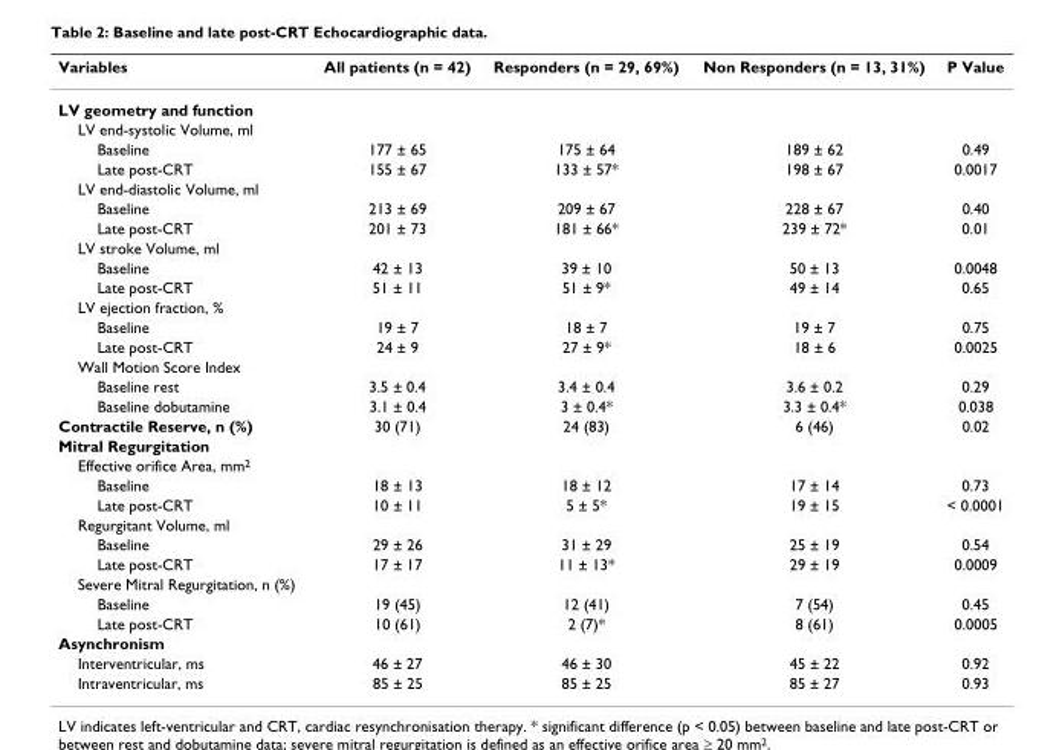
<table><thead><tr><td>Variables</td><td>All patients (n = 42)</td><td>Responders (n = 29, 69%)</td><td>Non Responders (n = 13, 31%)</td><td>P Value</td></tr></thead><tbody><tr><td colspan="5">LV geometry and function</td></tr><tr><td colspan="5">LV end-systolic Volume, ml</td></tr><tr><td>Baseline</td><td>177 ± 65</td><td>175 ± 64</td><td>189 ± 62</td><td>0.49</td></tr><tr><td>Late post-CRT</td><td>155 ± 67</td><td>133 ± 57*</td><td>198 ± 67</td><td>0.0017</td></tr><tr><td colspan="5">LV end-diastolic Volume, ml</td></tr><tr><td>Baseline</td><td>213 ± 69</td><td>209 ± 67</td><td>228 ± 67</td><td>0.40</td></tr><tr><td>Late post-CRT</td><td>201 ± 73</td><td>181 ± 66*</td><td>239 ± 72*</td><td>0.01</td></tr><tr><td colspan="5">LV stroke Volume, ml</td></tr><tr><td>Baseline</td><td>42 ± 13</td><td>39 ± 10</td><td>50 ± 13</td><td>0.0048</td></tr><tr><td>Late post-CRT</td><td>51 ± 11</td><td>51 ± 9*</td><td>49 ± 14</td><td>0.65</td></tr><tr><td colspan="5">LV ejection fraction, %</td></tr><tr><td>Baseline</td><td>19 ± 7</td><td>18 ± 7</td><td>19 ± 7</td><td>0.75</td></tr><tr><td>Late post-CRT</td><td>24 ± 9</td><td>27 ± 9*</td><td>18 ± 6</td><td>0.0025</td></tr><tr><td colspan="5">Wall Motion Score Index</td></tr><tr><td>Baseline rest</td><td>3.5 ± 0.4</td><td>3.4 ± 0.4</td><td>3.6 ± 0.2</td><td>0.29</td></tr><tr><td>Baseline dobutamine</td><td>3.1 ± 0.4</td><td>3 ± 0.4*</td><td>3.3 ± 0.4*</td><td>0.038</td></tr><tr><td>Contractile Reserve, n (%)</td><td>30 (71)</td><td>24 (83)</td><td>6 (46)</td><td>0.02</td></tr><tr><td colspan="5">Mitral Regurgitation</td></tr><tr><td colspan="5">Effective orifice Area, mm<sup>2</sup></td></tr><tr><td>Baseline</td><td>18 ± 13</td><td>18 ± 12</td><td>17 ± 14</td><td>0.73</td></tr><tr><td>Late post-CRT</td><td>10 ± 11</td><td>5 ± 5*</td><td>19 ± 15</td><td>&lt; 0.0001</td></tr><tr><td colspan="5">Regurgitant Volume, ml</td></tr><tr><td>Baseline</td><td>29 ± 26</td><td>31 ± 29</td><td>25 ± 19</td><td>0.54</td></tr><tr><td>Late post-CRT</td><td>17 ± 17</td><td>11 ± 13*</td><td>29 ± 19</td><td>0.0009</td></tr><tr><td colspan="5">Severe Mitral Regurgitation, n (%)</td></tr><tr><td>Baseline</td><td>19 (45)</td><td>12 (41)</td><td>7 (54)</td><td>0.45</td></tr><tr><td>Late post-CRT</td><td>10 (61)</td><td>2 (7)*</td><td>8 (61)</td><td>0.0005</td></tr><tr><td colspan="5">Asynchronism</td></tr><tr><td>Interventricular, ms</td><td>46 ± 27</td><td>46 ± 30</td><td>45 ± 22</td><td>0.92</td></tr><tr><td>Intraventricular, ms</td><td>85 ± 25</td><td>85 ± 25</td><td>85 ± 27</td><td>0.93</td></tr></tbody></table>